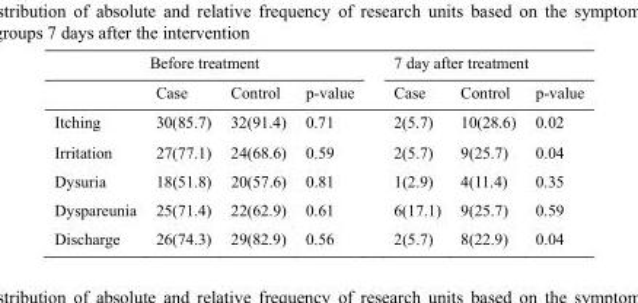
<table><thead><tr><td rowspan="2"></td><td colspan="3">Before treatment</td><td colspan="3">7 day after treatment</td></tr><tr><td>Case</td><td>Control</td><td>p-value</td><td>Case</td><td>Control</td><td>p-value</td></tr></thead><tbody><tr><td>Itching</td><td>30(85.7)</td><td>32(91.4)</td><td>0.71</td><td>2(5.7)</td><td>10(28.6)</td><td>0.02</td></tr><tr><td>Irritation</td><td>27(77.1)</td><td>24(68.6)</td><td>0.59</td><td>2(5.7)</td><td>9(25.7)</td><td>0.04</td></tr><tr><td>Dysuria</td><td>18(51.8)</td><td>20(57.6)</td><td>0.81</td><td>1(2.9)</td><td>4(11.4)</td><td>0.35</td></tr><tr><td>Dyspareunia</td><td>25(71.4)</td><td>22(62.9)</td><td>0.61</td><td>6(17.1)</td><td>9(25.7)</td><td>0.59</td></tr><tr><td>Discharge</td><td>26(74.3)</td><td>29(82.9)</td><td>0.56</td><td>2(5.7)</td><td>8(22.9)</td><td>0.04</td></tr></tbody></table>